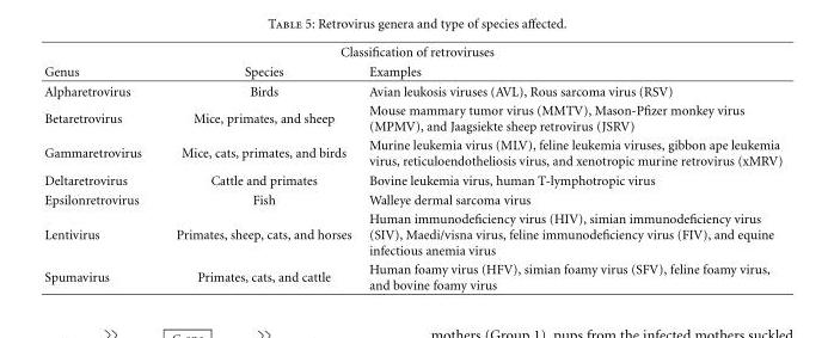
<table><thead><tr><td colspan="3">Classification of retroviruses</td></tr><tr><td>Genus</td><td>Species</td><td>Examples</td></tr></thead><tbody><tr><td>Alpharetrovirus</td><td>Birds</td><td>Avian leukosis viruses (AVL), Rous sarcoma virus (RSV)</td></tr><tr><td>Betaretrovirus</td><td>Mice, primates, and sheep</td><td>Mouse mammary tumor virus (MMTV), Mason-Pfizer monkey virus (MPMV), and Jaagsiekte sheep retrovirus (JSRV)</td></tr><tr><td>Gammaretrovirus</td><td>Mice, cats, primates, and birds</td><td>Murine leukemia virus (MLV), feline leukemia viruses, gibbon ape leukemia virus, reticuloendotheliosis virus, and xenotropic murine retrovirus (xMRV)</td></tr><tr><td>Deltaretrovirus</td><td>Cattle and primates</td><td>Bovine leukemia virus, human T-lymphotropic virus</td></tr><tr><td>Epsilonretrovirus</td><td>Fish</td><td>Walleye dermal sarcoma virus</td></tr><tr><td>Lentivirus</td><td>Primates, sheep, cats, and horses</td><td>Human immunodeficiency virus (HIV), simian immunodeficiency virus (SIV), Maedi/visna virus, feline immunodeficiency virus (FIV), and equine infectious anemia virus</td></tr><tr><td>Spumavirus</td><td>Primates, cats, and cattle</td><td>Human foamy virus (HFV), simian foamy virus (SFV), feline foamy virus, and bovine foamy virus</td></tr></tbody></table>